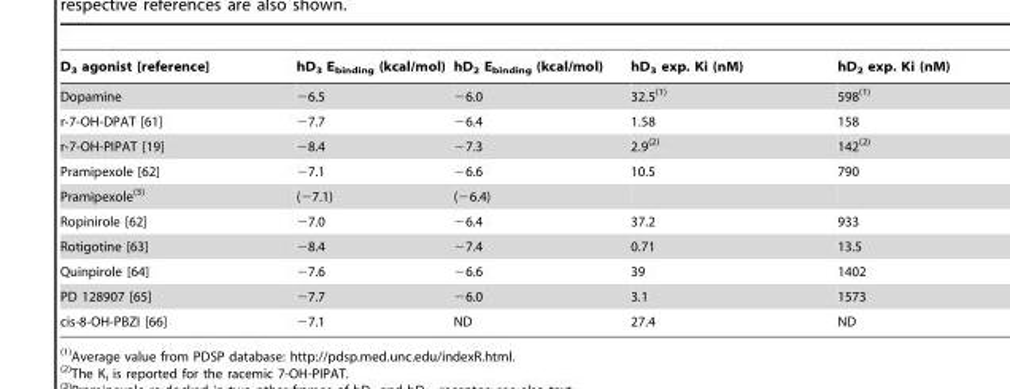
<table><thead><tr><td>D<sub>3</sub> agonist [reference]</td><td>hD<sub>3</sub> E<sub>binding</sub> (kcal/mol)</td><td>hD<sub>2</sub> E<sub>binding</sub> (kcal/mol)</td><td>hD<sub>3</sub> exp. Ki (nM)</td><td>hD<sub>2</sub> exp. Ki (nM)</td></tr></thead><tbody><tr><td>Dopamine</td><td>−6.5</td><td>−6.0</td><td>32.5(1)</td><td>598(1)</td></tr><tr><td>r-7-OH-DPAT [61]</td><td>−7.7</td><td>−6.4</td><td>1.58</td><td>158</td></tr><tr><td>r-7-OH-PIPAT [19]</td><td>−8.4</td><td>−7.3</td><td>2.9(2)</td><td>142(2)</td></tr><tr><td>Pramipexole [62]</td><td>−7.1</td><td>−6.6</td><td>10.5</td><td>790</td></tr><tr><td>Pramipexole(3)</td><td>(−7.1)</td><td>(−6.4)</td><td></td><td></td></tr><tr><td>Ropinirole [62]</td><td>−7.0</td><td>−6.4</td><td>37.2</td><td>933</td></tr><tr><td>Rotigotine [63]</td><td>−8.4</td><td>−7.4</td><td>0.71</td><td>13.5</td></tr><tr><td>Quinpirole [64]</td><td>−7.6</td><td>−6.6</td><td>39</td><td>1402</td></tr><tr><td>PD 128907 [65]</td><td>−7.7</td><td>−6.0</td><td>3.1</td><td>1573</td></tr><tr><td>cis-8-OH-PBZI [66]</td><td>−7.1</td><td>ND</td><td>27.4</td><td>ND</td></tr></tbody></table>